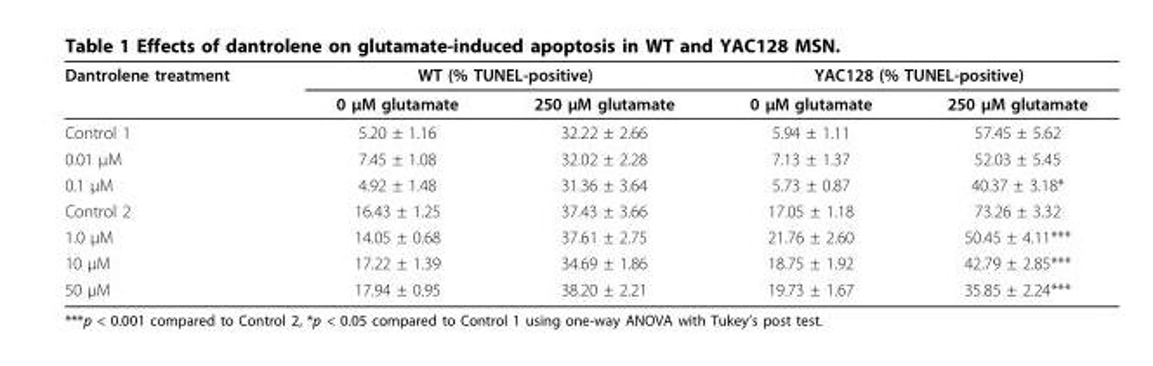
<table><thead><tr><td rowspan="2">Dantrolene treatment</td><td colspan="2">WT (% TUNEL-positive)</td><td colspan="2">YAC128 (% TUNEL-positive)</td></tr><tr><td>0 μM glutamate</td><td>250 μM glutamate</td><td>0 μM glutamate</td><td>250 μM glutamate</td></tr></thead><tbody><tr><td>Control 1</td><td>5.20 ± 1.16</td><td>32.22 ± 2.66</td><td>5.94 ± 1.11</td><td>57.45 ± 5.62</td></tr><tr><td>0.01 μM</td><td>7.45 ± 1.08</td><td>32.02 ± 2.28</td><td>7.13 ± 1.37</td><td>52.03 ± 5.45</td></tr><tr><td>0.1 μM</td><td>4.92 ± 1.48</td><td>31.36 ± 3.64</td><td>5.73 ± 0.87</td><td>40.37 ± 3.18*</td></tr><tr><td>Control 2</td><td>16.43 ± 1.25</td><td>37.43 ± 3.66</td><td>17.05 ± 1.18</td><td>73.26 ± 3.32</td></tr><tr><td>1.0 μM</td><td>14.05 ± 0.68</td><td>37.61 ± 2.75</td><td>21.76 ± 2.60</td><td>50.45 ± 4.11***</td></tr><tr><td>10 μM</td><td>17.22 ± 1.39</td><td>34.69 ± 1.86</td><td>18.75 ± 1.92</td><td>42.79 ± 2.85***</td></tr><tr><td>50 μM</td><td>17.94 ± 0.95</td><td>38.20 ± 2.21</td><td>19.73 ± 1.67</td><td>35.85 ± 2.24***</td></tr></tbody></table>